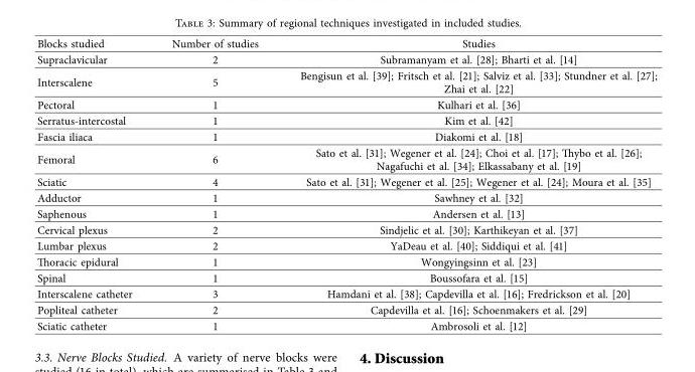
<table><thead><tr><td>Blocks studied</td><td>Number of studies</td><td>Studies</td></tr></thead><tbody><tr><td>Supraclavicular</td><td>2</td><td>Subramanyam et al. [28]; Bharti et al. [14]</td></tr><tr><td>Interscalene</td><td>5</td><td>Bengisun et al. [39]; Fritsch et al. [21]; Salviz et al. [33]; Stundner et al. [27]; Zhai et al. [22]</td></tr><tr><td>Pectoral</td><td>1</td><td>Kulhari et al. [36]</td></tr><tr><td>Serratus-intercostal</td><td>1</td><td>Kim et al. [42]</td></tr><tr><td>Fascia iliaca</td><td>1</td><td>Diakomi et al. [18]</td></tr><tr><td>Femoral</td><td>6</td><td>Sato et al. [31]; Wegener et al. [24]; Choi et al. [17]; Tybo et al. [26]; Nagafuchi et al. [34]; Elkassabany et al. [19]</td></tr><tr><td>Sciatic</td><td>4</td><td>Sato et al. [31]; Wegener et al. [25]; Wegener et al. [24]; Moura et al. [35]</td></tr><tr><td>Adductor</td><td>1</td><td>Sawhney et al. [32]</td></tr><tr><td>Saphenous</td><td>1</td><td>Andersen et al. [13]</td></tr><tr><td>Cervical plexus</td><td>2</td><td>Sindjelic et al. [30]; Karthikeyan et al. [37]</td></tr><tr><td>Lumbar plexus</td><td>2</td><td>YaDeau et al. [40]; Siddiqui et al. [41]</td></tr><tr><td>Toracic epidural</td><td>1</td><td>Wongyingsinn et al. [23]</td></tr><tr><td>Spinal</td><td>1</td><td>Boussofara et al. [15]</td></tr><tr><td>Interscalene catheter</td><td>3</td><td>Hamdani et al. [38]; Capdevilla et al. [16]; Fredrickson et al. [20]</td></tr><tr><td>Popliteal catheter</td><td>2</td><td>Capdevilla et al. [16]; Schoenmakers et al. [29]</td></tr><tr><td>Sciatic catheter</td><td>1</td><td>Ambrosoli et al. [12]</td></tr></tbody></table>